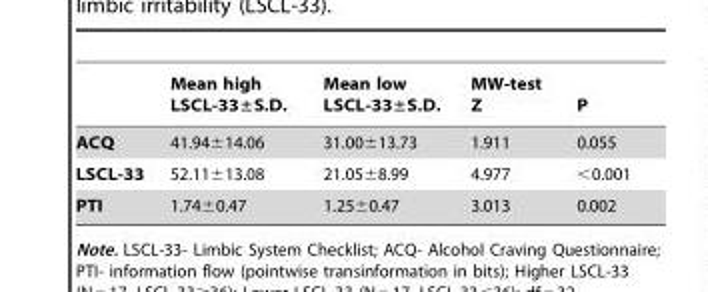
<table><thead><tr><td></td><td>Mean high LSCL-33±S.D.</td><td>Mean low LSCL-33±S.D.</td><td>MW-test Z</td><td>P</td></tr></thead><tbody><tr><td>ACQ</td><td>41.94±14.06</td><td>31.00±13.73</td><td>1.911</td><td>0.055</td></tr><tr><td>LSCL-33</td><td>52.11±13.08</td><td>21.05±8.99</td><td>4.977</td><td>&lt;0.001</td></tr><tr><td>PTI</td><td>1.74±0.47</td><td>1.25±0.47</td><td>3.013</td><td>0.002</td></tr></tbody></table>